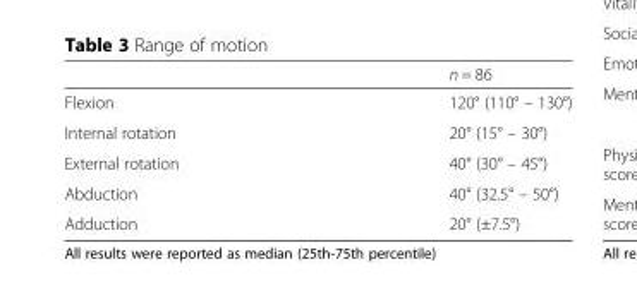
<table><thead><tr><td></td><td>n = 86</td></tr></thead><tbody><tr><td>Flexion</td><td>120° (110° – 130°)</td></tr><tr><td>Internal rotation</td><td>20° (15° – 30°)</td></tr><tr><td>External rotation</td><td>40° (30° – 45°)</td></tr><tr><td>Abduction</td><td>40° (32.5° – 50°)</td></tr><tr><td>Adduction</td><td>20° (±7.5°)</td></tr></tbody></table>